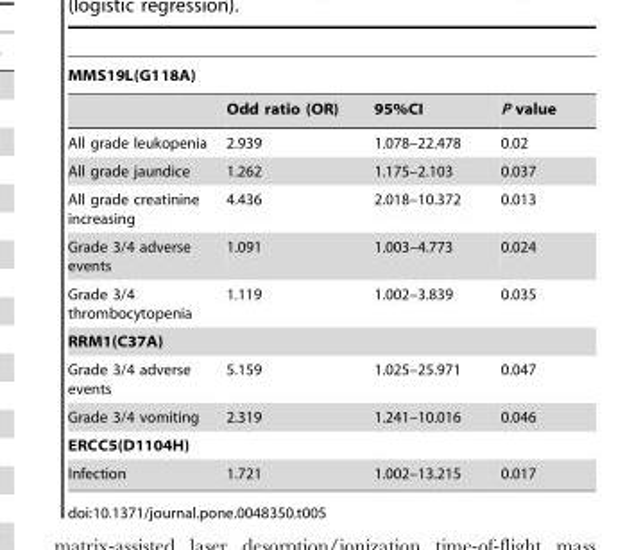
<table><thead><tr><td colspan="4">MMS19L(G118A)</td></tr><tr><td></td><td>Odd ratio (OR)</td><td>95%CI</td><td>P value</td></tr></thead><tbody><tr><td>All grade leukopenia</td><td>2.939</td><td>1.078–22.478</td><td>0.02</td></tr><tr><td>All grade jaundice</td><td>1.262</td><td>1.175–2.103</td><td>0.037</td></tr><tr><td>All grade creatinine increasing</td><td>4.436</td><td>2.018–10.372</td><td>0.013</td></tr><tr><td>Grade 3/4 adverse events</td><td>1.091</td><td>1.003–4.773</td><td>0.024</td></tr><tr><td>Grade 3/4 thrombocytopenia</td><td>1.119</td><td>1.002–3.839</td><td>0.035</td></tr><tr><td colspan="4">RRM1(C37A)</td></tr><tr><td>Grade 3/4 adverse events</td><td>5.159</td><td>1.025–25.971</td><td>0.047</td></tr><tr><td>Grade 3/4 vomiting</td><td>2.319</td><td>1.241–10.016</td><td>0.046</td></tr><tr><td colspan="4">ERCC5(D1104H)</td></tr><tr><td>Infection</td><td>1.721</td><td>1.002–13.215</td><td>0.017</td></tr></tbody></table>